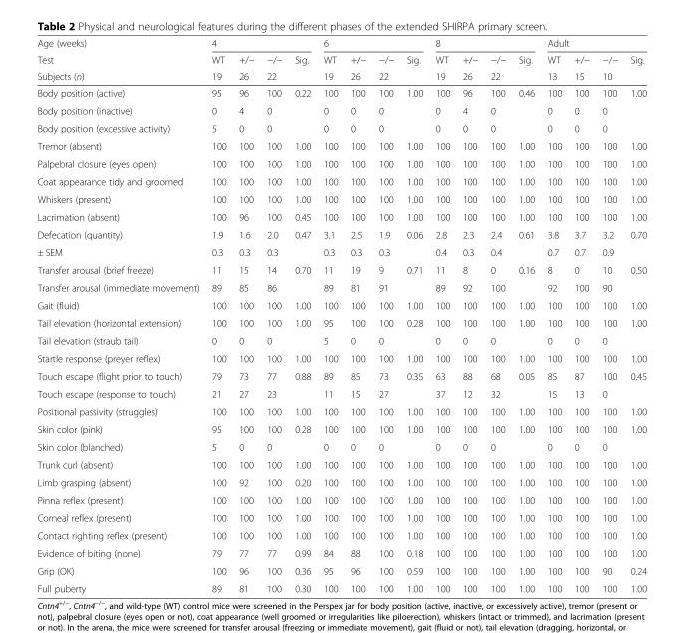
<table><thead><tr><td rowspan="3">Age (weeks) Test Subjects (n)</td><td colspan="4">4</td><td colspan="4">6</td><td colspan="4">8</td><td colspan="4">Adult</td></tr><tr><td rowspan="2">WT 19</td><td rowspan="2">+/− 26</td><td rowspan="2">−/− 22</td><td rowspan="2">Sig.</td><td rowspan="2">WT 19</td><td rowspan="2">+/− 26</td><td rowspan="2">−/− 22</td><td rowspan="2">Sig.</td><td rowspan="2">WT 19</td><td rowspan="2">+/− 26</td><td rowspan="2">−/− 22</td><td rowspan="2">Sig.</td><td rowspan="2">WT 13</td><td rowspan="2">+/− 15</td><td rowspan="2">−/− 10</td><td rowspan="2">Sig.</td></tr><tr></tr></thead><tbody><tr><td>Body position (active)</td><td>95</td><td>96</td><td>100</td><td>0.22</td><td>100</td><td>100</td><td>100</td><td>1.00</td><td>100</td><td>96</td><td>100</td><td>0.46</td><td>100</td><td>100</td><td>100</td><td>1.00</td></tr><tr><td>Body position (inactive)</td><td>0</td><td>4</td><td>0</td><td></td><td>0</td><td>0</td><td>0</td><td></td><td>0</td><td>4</td><td>0</td><td></td><td>0</td><td>0</td><td>0</td><td></td></tr><tr><td>Body position (excessive activity)</td><td>5</td><td>0</td><td>0</td><td></td><td>0</td><td>0</td><td>0</td><td></td><td>0</td><td>0</td><td>0</td><td></td><td>0</td><td>0</td><td>0</td><td></td></tr><tr><td>Tremor (absent)</td><td>100</td><td>100</td><td>100</td><td>1.00</td><td>100</td><td>100</td><td>100</td><td>1.00</td><td>100</td><td>100</td><td>100</td><td>1.00</td><td>100</td><td>100</td><td>100</td><td>1.00</td></tr><tr><td>Palpebral closure (eyes open)</td><td>100</td><td>100</td><td>100</td><td>1.00</td><td>100</td><td>100</td><td>100</td><td>1.00</td><td>100</td><td>100</td><td>100</td><td>1.00</td><td>100</td><td>100</td><td>100</td><td>1.00</td></tr><tr><td>Coat appearance tidy and groomed</td><td>100</td><td>100</td><td>100</td><td>1.00</td><td>100</td><td>100</td><td>100</td><td>1.00</td><td>100</td><td>100</td><td>100</td><td>1.00</td><td>100</td><td>100</td><td>100</td><td>1.00</td></tr><tr><td>Whiskers (present)</td><td>100</td><td>100</td><td>100</td><td>1.00</td><td>100</td><td>100</td><td>100</td><td>1.00</td><td>100</td><td>100</td><td>100</td><td>1.00</td><td>100</td><td>100</td><td>100</td><td>1.00</td></tr><tr><td>Lacrimation (absent)</td><td>100</td><td>96</td><td>100</td><td>0.45</td><td>100</td><td>100</td><td>100</td><td>1.00</td><td>100</td><td>100</td><td>100</td><td>1.00</td><td>100</td><td>100</td><td>100</td><td>1.00</td></tr><tr><td>Defecation (quantity)</td><td>1.9</td><td>1.6</td><td>2.0</td><td>0.47</td><td>3.1</td><td>2.5</td><td>1.9</td><td>0.06</td><td>2.8</td><td>2.3</td><td>2.4</td><td>0.61</td><td>3.8</td><td>3.7</td><td>3.2</td><td>0.70</td></tr><tr><td>± SEM</td><td>0.3</td><td>0.3</td><td>0.3</td><td></td><td>0.3</td><td>0.3</td><td>0.3</td><td></td><td>0.4</td><td>0.3</td><td>0.4</td><td></td><td>0.7</td><td>0.7</td><td>0.9</td><td></td></tr><tr><td>Transfer arousal (brief freeze)</td><td>11</td><td>15</td><td>14</td><td>0.70</td><td>11</td><td>19</td><td>9</td><td>0.71</td><td>11</td><td>8</td><td>0</td><td>0.16</td><td>8</td><td>0</td><td>10</td><td>0.50</td></tr><tr><td>Transfer arousal (immediate movement)</td><td>89</td><td>85</td><td>86</td><td></td><td>89</td><td>81</td><td>91</td><td></td><td>89</td><td>92</td><td>100</td><td></td><td>92</td><td>100</td><td>90</td><td></td></tr><tr><td>Gait (fluid)</td><td>100</td><td>100</td><td>100</td><td>1.00</td><td>100</td><td>100</td><td>100</td><td>1.00</td><td>100</td><td>100</td><td>100</td><td>1.00</td><td>100</td><td>100</td><td>100</td><td>1.00</td></tr><tr><td>Tail elevation (horizontal extension)</td><td>100</td><td>100</td><td>100</td><td>1.00</td><td>95</td><td>100</td><td>100</td><td>0.28</td><td>100</td><td>100</td><td>100</td><td>1.00</td><td>100</td><td>100</td><td>100</td><td>1.00</td></tr><tr><td>Tail elevation (straub tail)</td><td>0</td><td>0</td><td>0</td><td></td><td>5</td><td>0</td><td>0</td><td></td><td>0</td><td>0</td><td>0</td><td></td><td>0</td><td>0</td><td>0</td><td></td></tr><tr><td>Startle response (preyer reflex)</td><td>100</td><td>100</td><td>100</td><td>1.00</td><td>100</td><td>100</td><td>100</td><td>1.00</td><td>100</td><td>100</td><td>100</td><td>1.00</td><td>100</td><td>100</td><td>100</td><td>1.00</td></tr><tr><td>Touch escape (flight prior to touch)</td><td>79</td><td>73</td><td>77</td><td>0.88</td><td>89</td><td>85</td><td>73</td><td>0.35</td><td>63</td><td>88</td><td>68</td><td>0.05</td><td>85</td><td>87</td><td>100</td><td>0.45</td></tr><tr><td>Touch escape (response to touch)</td><td>21</td><td>27</td><td>23</td><td></td><td>11</td><td>15</td><td>27</td><td></td><td>37</td><td>12</td><td>32</td><td></td><td>15</td><td>13</td><td>0</td><td></td></tr><tr><td>Positional passivity (struggles)</td><td>100</td><td>100</td><td>100</td><td>1.00</td><td>100</td><td>100</td><td>100</td><td>1.00</td><td>100</td><td>100</td><td>100</td><td>1.00</td><td>100</td><td>100</td><td>100</td><td>1.00</td></tr><tr><td>Skin color (pink)</td><td>95</td><td>100</td><td>100</td><td>0.28</td><td>100</td><td>100</td><td>100</td><td>1.00</td><td>100</td><td>100</td><td>100</td><td>1.00</td><td>100</td><td>100</td><td>100</td><td>1.00</td></tr><tr><td>Skin color (blanched)</td><td>5</td><td>0</td><td>0</td><td></td><td>0</td><td>0</td><td>0</td><td></td><td>0</td><td>0</td><td>0</td><td></td><td>0</td><td>0</td><td>0</td><td></td></tr><tr><td>Trunk curl (absent)</td><td>100</td><td>100</td><td>100</td><td>1.00</td><td>100</td><td>100</td><td>100</td><td>1.00</td><td>100</td><td>100</td><td>100</td><td>1.00</td><td>100</td><td>100</td><td>100</td><td>1.00</td></tr><tr><td>Limb grasping (absent)</td><td>100</td><td>92</td><td>100</td><td>0.20</td><td>100</td><td>100</td><td>100</td><td>1.00</td><td>100</td><td>100</td><td>100</td><td>1.00</td><td>100</td><td>100</td><td>100</td><td>1.00</td></tr><tr><td>Pinna reflex (present)</td><td>100</td><td>100</td><td>100</td><td>1.00</td><td>100</td><td>100</td><td>100</td><td>1.00</td><td>100</td><td>100</td><td>100</td><td>1.00</td><td>100</td><td>100</td><td>100</td><td>1.00</td></tr><tr><td>Corneal reflex (present)</td><td>100</td><td>100</td><td>100</td><td>1.00</td><td>100</td><td>100</td><td>100</td><td>1.00</td><td>100</td><td>100</td><td>100</td><td>1.00</td><td>100</td><td>100</td><td>100</td><td>1.00</td></tr><tr><td>Contact righting reflex (present)</td><td>100</td><td>100</td><td>100</td><td>1.00</td><td>100</td><td>100</td><td>100</td><td>1.00</td><td>100</td><td>100</td><td>100</td><td>1.00</td><td>100</td><td>100</td><td>100</td><td>1.00</td></tr><tr><td>Evidence of biting (none)</td><td>79</td><td>77</td><td>77</td><td>0.99</td><td>84</td><td>88</td><td>100</td><td>0.18</td><td>100</td><td>100</td><td>100</td><td>1.00</td><td>100</td><td>100</td><td>100</td><td>1.00</td></tr><tr><td>Grip (OK)</td><td>100</td><td>96</td><td>100</td><td>0.36</td><td>95</td><td>96</td><td>100</td><td>0.59</td><td>100</td><td>100</td><td>100</td><td>1.00</td><td>100</td><td>100</td><td>90</td><td>0.24</td></tr><tr><td>Full puberty</td><td>89</td><td>81</td><td>100</td><td>0.30</td><td>100</td><td>100</td><td>100</td><td>1.00</td><td>100</td><td>100</td><td>100</td><td>1.00</td><td>100</td><td>100</td><td>100</td><td>1.00</td></tr></tbody></table>